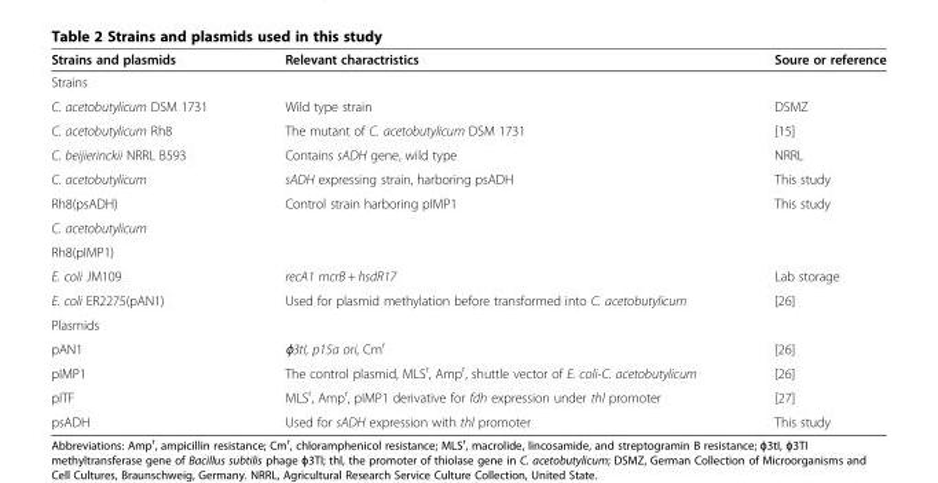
<table><thead><tr><td>Strains and plasmids</td><td>Relevant charactristics</td><td>Soure or reference</td></tr></thead><tbody><tr><td colspan="3">Strains</td></tr><tr><td>C. acetobutylicum DSM 1731</td><td>Wild type strain</td><td>DSMZ</td></tr><tr><td>C. acetobutylicum Rh8</td><td>The mutant of C. acetobutylicum DSM 1731</td><td>[15]</td></tr><tr><td>C. beijierinckii NRRL B593</td><td>Contains sADH gene, wild type</td><td>NRRL</td></tr><tr><td>C. acetobutylicum</td><td>sADH expressing strain, harboring psADH</td><td>This study</td></tr><tr><td>Rh8(psADH)</td><td>Control strain harboring pIMP1</td><td rowspan="3">This study</td></tr><tr><td>C. acetobutylicum</td><td rowspan="2"></td></tr><tr><td>Rh8(pIMP1)</td></tr><tr><td>E. coli JM109</td><td>recA1 mcrB + hsdR17</td><td>Lab storage</td></tr><tr><td>E. coli ER2275(pAN1)</td><td>Used for plasmid methylation before transformed into C. acetobutylicum</td><td>[26]</td></tr><tr><td colspan="3">Plasmids</td></tr><tr><td>pAN1</td><td>ɸ3tI, p15a ori, Cm<sup>r</sup></td><td>[26]</td></tr><tr><td>pIMP1</td><td>The control plasmid, MLS<sup>r</sup>, Amp<sup>r</sup>, shuttle vector of E. coli-C. acetobutylicum</td><td>[26]</td></tr><tr><td>pITF</td><td>MLS<sup>r</sup>, Amp<sup>r</sup>, pIMP1 derivative for fdh expression under thl promoter</td><td>[27]</td></tr><tr><td>psADH</td><td>Used for sADH expression with thl promoter</td><td>This study</td></tr></tbody></table>